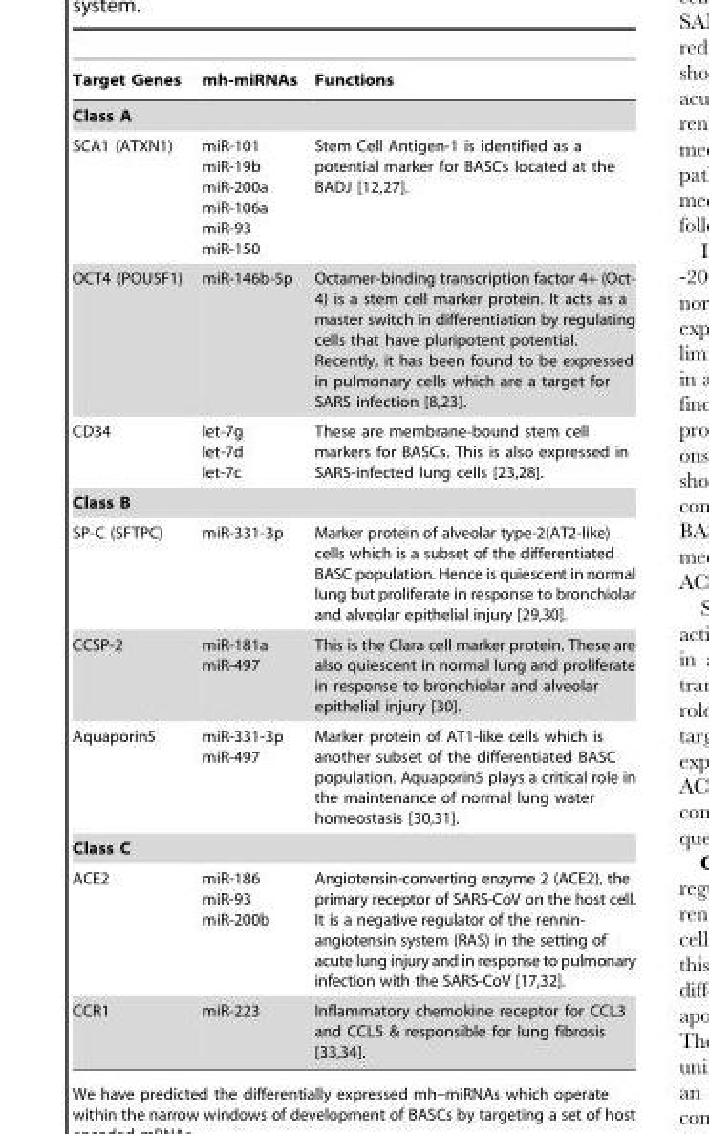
<table><thead><tr><td>Target Genes</td><td>mh-miRNAs</td><td>Functions</td></tr></thead><tbody><tr><td colspan="3">Class A</td></tr><tr><td>SCA1 (ATXN1)</td><td>miR-101 miR-19b miR-200a miR-106a miR-93 miR-150</td><td>Stem Cell Antigen-1 is identified as a potential marker for BASCs located at the BADJ [12,27].</td></tr><tr><td>OCT4 (POU5F1)</td><td>miR-146b-5p</td><td>Octamer-binding transcription factor 4+ (Oct- 4) is a stem cell marker protein. It acts as a master switch in differentiation by regulating cells that have pluripotent potential. Recently, it has been found to be expressed in pulmonary cells which are a target for SARS infection [8,23].</td></tr><tr><td>CD34</td><td>let-7g let-7d let-7c</td><td>These are membrane-bound stem cell markers for BASCs. This is also expressed in SARS-infected lung cells [23,28].</td></tr><tr><td colspan="3">Class B</td></tr><tr><td>SP-C (SFTPC)</td><td>miR-331-3p</td><td>Marker protein of alveolar type-2(AT2-like) cells which is a subset of the differentiated BASC population. Hence is quiescent in normal lung but proliferate in response to bronchiolar and alveolar epithelial injury [29,30].</td></tr><tr><td>CCSP-2</td><td>miR-181a miR-497</td><td>This is the Clara cell marker protein. These are also quiescent in normal lung and proliferate in response to bronchiolar and alveolar epithelial injury [30].</td></tr><tr><td>Aquaporin5</td><td>miR-331-3p miR-497</td><td>Marker protein of AT1-like cells which is another subset of the differentiated BASC population. Aquaporin5 plays a critical role in the maintenance of normal lung water homeostasis [30,31].</td></tr><tr><td colspan="3">Class C</td></tr><tr><td>ACE2</td><td>miR-186 miR-93 miR-200b</td><td>Angiotensin-converting enzyme 2 (ACE2), the primary receptor of SARS-CoV on the host cell. It is a negative regulator of the rennin- angiotensin system (RAS) in the setting of acute lung injury and in response to pulmonary infection with the SARS-CoV [17,32].</td></tr><tr><td>CCR1</td><td>miR-223</td><td>Inflammatory chemokine receptor for CCL3 and CCL5 &amp; responsible for lung fibrosis [33,34].</td></tr></tbody></table>